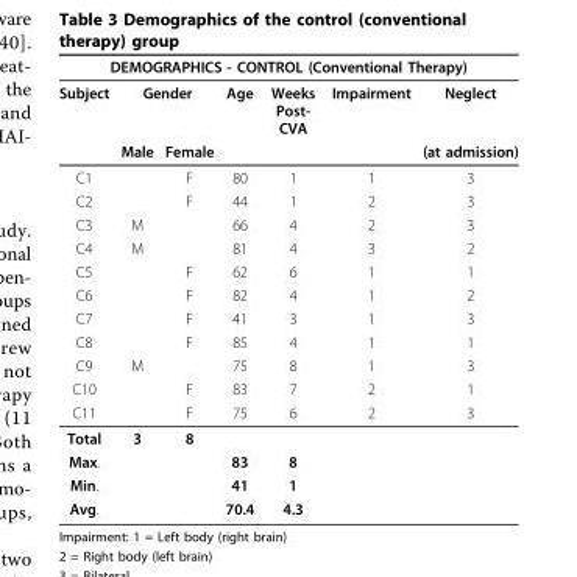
<table><thead><tr><td colspan="7">DEMOGRAPHICS - CONTROL (Conventional Therapy)</td></tr><tr><td rowspan="2">Subject</td><td colspan="2">Gender</td><td rowspan="2">Age</td><td rowspan="2">Weeks Post- CVA</td><td rowspan="2">Impairment</td><td rowspan="2">Neglect (at admission)</td></tr><tr><td>Male</td><td>Female</td></tr></thead><tbody><tr><td>C1</td><td></td><td>F</td><td>80</td><td>1</td><td>1</td><td>3</td></tr><tr><td>C2</td><td></td><td>F</td><td>44</td><td>1</td><td>2</td><td>3</td></tr><tr><td>C3</td><td>M</td><td></td><td>66</td><td>4</td><td>2</td><td>3</td></tr><tr><td>C4</td><td>M</td><td></td><td>81</td><td>4</td><td>3</td><td>2</td></tr><tr><td>C5</td><td></td><td>F</td><td>62</td><td>6</td><td>1</td><td>1</td></tr><tr><td>C6</td><td></td><td>F</td><td>82</td><td>4</td><td>1</td><td>2</td></tr><tr><td>C7</td><td></td><td>F</td><td>41</td><td>3</td><td>1</td><td>3</td></tr><tr><td>C8</td><td></td><td>F</td><td>85</td><td>4</td><td>1</td><td>1</td></tr><tr><td>C9</td><td>M</td><td></td><td>75</td><td>8</td><td>1</td><td>3</td></tr><tr><td>C10</td><td></td><td>F</td><td>83</td><td>7</td><td>2</td><td>1</td></tr><tr><td>C11</td><td></td><td>F</td><td>75</td><td>6</td><td>2</td><td>3</td></tr><tr><td>Total</td><td>3</td><td>8</td><td></td><td></td><td></td><td></td></tr><tr><td>Max.</td><td></td><td></td><td>83</td><td>8</td><td></td><td></td></tr><tr><td>Min.</td><td></td><td></td><td>41</td><td>1</td><td></td><td></td></tr><tr><td>Avg.</td><td></td><td></td><td>70.4</td><td>4.3</td><td></td><td></td></tr></tbody></table>